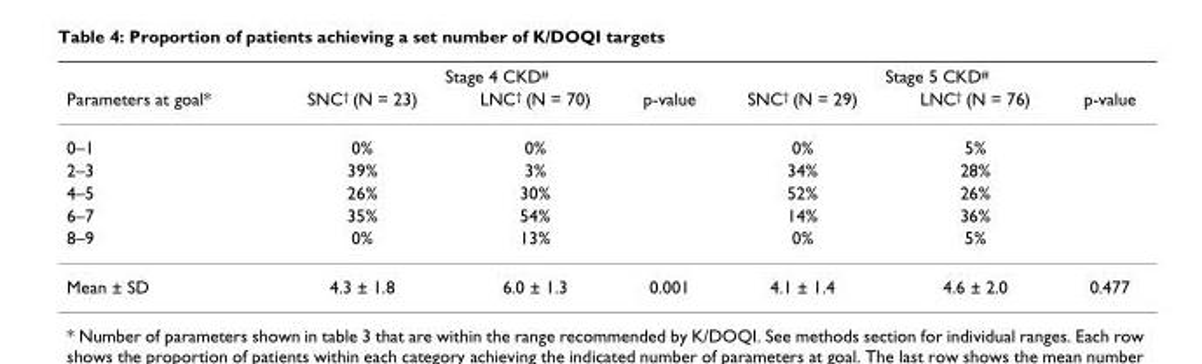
<table><thead><tr><td rowspan="2">Parameters at goal*</td><td colspan="3">Stage 4 CKD<sup>#</sup></td><td colspan="3">Stage 5 CKD<sup>#</sup></td></tr><tr><td>SNC<sup>†</sup> (N = 23)</td><td>LNC<sup>†</sup> (N = 70)</td><td>p-value</td><td>SNC<sup>†</sup> (N = 29)</td><td>LNC<sup>†</sup> (N = 76)</td><td>p-value</td></tr></thead><tbody><tr><td>0–1</td><td>0%</td><td>0%</td><td></td><td>0%</td><td>5%</td><td></td></tr><tr><td>2–3</td><td>39%</td><td>3%</td><td></td><td>34%</td><td>28%</td><td></td></tr><tr><td>4–5</td><td>26%</td><td>30%</td><td></td><td>52%</td><td>26%</td><td></td></tr><tr><td>6–7</td><td>35%</td><td>54%</td><td></td><td>14%</td><td>36%</td><td></td></tr><tr><td>8–9</td><td>0%</td><td>13%</td><td></td><td>0%</td><td>5%</td><td></td></tr><tr><td>Mean ± SD</td><td>4.3 ± 1.8</td><td>6.0 ± 1.3</td><td>0.001</td><td>4.1 ± 1.4</td><td>4.6 ± 2.0</td><td>0.477</td></tr></tbody></table>